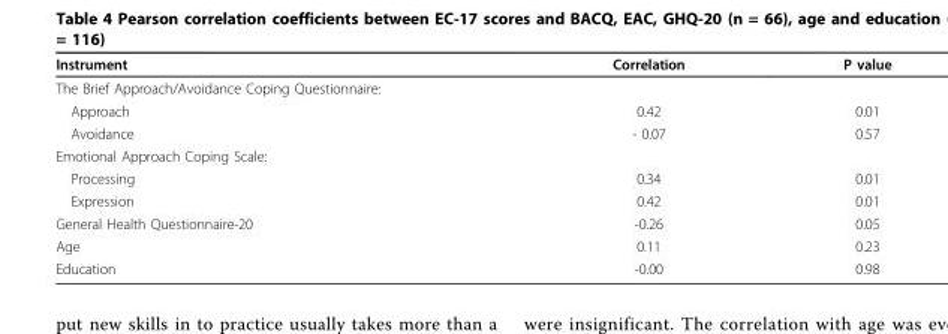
<table><thead><tr><td>Instrument</td><td>Correlation</td><td>P value</td></tr></thead><tbody><tr><td colspan="3">The Brief Approach/Avoidance Coping Questionnaire:</td></tr><tr><td>Approach</td><td>0.42</td><td>0.01</td></tr><tr><td>Avoidance</td><td>- 0.07</td><td>0.57</td></tr><tr><td colspan="3">Emotional Approach Coping Scale:</td></tr><tr><td>Processing</td><td>0.34</td><td>0.01</td></tr><tr><td>Expression</td><td>0.42</td><td>0.01</td></tr><tr><td>General Health Questionnaire-20</td><td>-0.26</td><td>0.05</td></tr><tr><td>Age</td><td>0.11</td><td>0.23</td></tr><tr><td>Education</td><td>-0.00</td><td>0.98</td></tr></tbody></table>